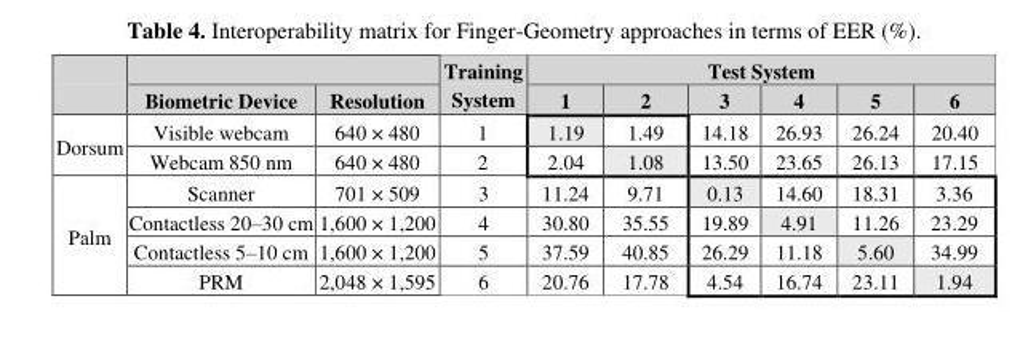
<table><thead><tr><td rowspan="2"></td><td rowspan="2">Biometric Device</td><td rowspan="2">Resolution</td><td rowspan="2">Training System</td><td colspan="6">Test System</td></tr><tr><td>1</td><td>2</td><td>3</td><td>4</td><td>5</td><td>6</td></tr></thead><tbody><tr><td rowspan="2">Dorsum</td><td>Visible webcam</td><td>640 × 480</td><td>1</td><td>1.19</td><td>1.49</td><td>14.18</td><td>26.93</td><td>26.24</td><td>20.40</td></tr><tr><td>Webcam 850 nm</td><td>640 × 480</td><td>2</td><td>2.04</td><td>1.08</td><td>13.50</td><td>23.65</td><td>26.13</td><td>17.15</td></tr><tr><td rowspan="4">Palm</td><td>Scanner</td><td>701 × 509</td><td>3</td><td>11.24</td><td>9.71</td><td>0.13</td><td>14.60</td><td>18.31</td><td>3.36</td></tr><tr><td>Contactless 20–30 cm</td><td>1,600 × 1,200</td><td>4</td><td>30.80</td><td>35.55</td><td>19.89</td><td>4.91</td><td>11.26</td><td>23.29</td></tr><tr><td>Contactless 5–10 cm</td><td>1,600 × 1,200</td><td>5</td><td>37.59</td><td>40.85</td><td>26.29</td><td>11.18</td><td>5.60</td><td>34.99</td></tr><tr><td>PRM</td><td>2,048 × 1,595</td><td>6</td><td>20.76</td><td>17.78</td><td>4.54</td><td>16.74</td><td>23.11</td><td>1.94</td></tr></tbody></table>